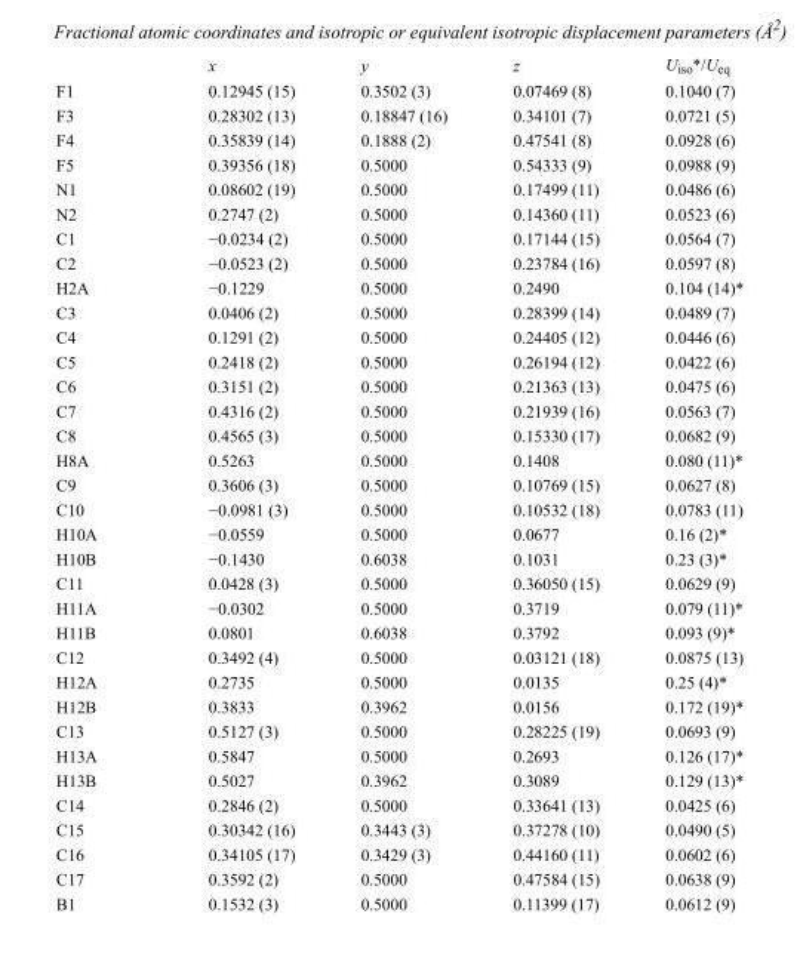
<table><thead><tr><td></td><td>x</td><td>y</td><td>z</td><td>U<sub>iso</sub>*/U<sub>eq</sub></td></tr></thead><tbody><tr><td>F1</td><td>0.12945 (15)</td><td>0.3502 (3)</td><td>0.07469 (8)</td><td>0.1040 (7)</td></tr><tr><td>F3</td><td>0.28302 (13)</td><td>0.18847 (16)</td><td>0.34101 (7)</td><td>0.0721 (5)</td></tr><tr><td>F4</td><td>0.35839 (14)</td><td>0.1888 (2)</td><td>0.47541 (8)</td><td>0.0928 (6)</td></tr><tr><td>F5</td><td>0.39356 (18)</td><td>0.5000</td><td>0.54333 (9)</td><td>0.0988 (9)</td></tr><tr><td>N1</td><td>0.08602 (19)</td><td>0.5000</td><td>0.17499 (11)</td><td>0.0486 (6)</td></tr><tr><td>N2</td><td>0.2747 (2)</td><td>0.5000</td><td>0.14360 (11)</td><td>0.0523 (6)</td></tr><tr><td>C1</td><td>−0.0234 (2)</td><td>0.5000</td><td>0.17144 (15)</td><td>0.0564 (7)</td></tr><tr><td>C2</td><td>−0.0523 (2)</td><td>0.5000</td><td>0.23784 (16)</td><td>0.0597 (8)</td></tr><tr><td>H2A</td><td>−0.1229</td><td>0.5000</td><td>0.2490</td><td>0.104 (14)*</td></tr><tr><td>C3</td><td>0.0406 (2)</td><td>0.5000</td><td>0.28399 (14)</td><td>0.0489 (7)</td></tr><tr><td>C4</td><td>0.1291 (2)</td><td>0.5000</td><td>0.24405 (12)</td><td>0.0446 (6)</td></tr><tr><td>C5</td><td>0.2418 (2)</td><td>0.5000</td><td>0.26194 (12)</td><td>0.0422 (6)</td></tr><tr><td>C6</td><td>0.3151 (2)</td><td>0.5000</td><td>0.21363 (13)</td><td>0.0475 (6)</td></tr><tr><td>C7</td><td>0.4316 (2)</td><td>0.5000</td><td>0.21939 (16)</td><td>0.0563 (7)</td></tr><tr><td>C8</td><td>0.4565 (3)</td><td>0.5000</td><td>0.15330 (17)</td><td>0.0682 (9)</td></tr><tr><td>H8A</td><td>0.5263</td><td>0.5000</td><td>0.1408</td><td>0.080 (11)*</td></tr><tr><td>C9</td><td>0.3606 (3)</td><td>0.5000</td><td>0.10769 (15)</td><td>0.0627 (8)</td></tr><tr><td>C10</td><td>−0.0981 (3)</td><td>0.5000</td><td>0.10532 (18)</td><td>0.0783 (11)</td></tr><tr><td>H10A</td><td>−0.0559</td><td>0.5000</td><td>0.0677</td><td>0.16 (2)*</td></tr><tr><td>H10B</td><td>−0.1430</td><td>0.6038</td><td>0.1031</td><td>0.23 (3)*</td></tr><tr><td>C11</td><td>0.0428 (3)</td><td>0.5000</td><td>0.36050 (15)</td><td>0.0629 (9)</td></tr><tr><td>H11A</td><td>−0.0302</td><td>0.5000</td><td>0.3719</td><td>0.079 (11)*</td></tr><tr><td>H11B</td><td>0.0801</td><td>0.6038</td><td>0.3792</td><td>0.093 (9)*</td></tr><tr><td>C12</td><td>0.3492 (4)</td><td>0.5000</td><td>0.03121 (18)</td><td>0.0875 (13)</td></tr><tr><td>H12A</td><td>0.2735</td><td>0.5000</td><td>0.0135</td><td>0.25 (4)*</td></tr><tr><td>H12B</td><td>0.3833</td><td>0.3962</td><td>0.0156</td><td>0.172 (19)*</td></tr><tr><td>C13</td><td>0.5127 (3)</td><td>0.5000</td><td>0.28225 (19)</td><td>0.0693 (9)</td></tr><tr><td>H13A</td><td>0.5847</td><td>0.5000</td><td>0.2693</td><td>0.126 (17)*</td></tr><tr><td>H13B</td><td>0.5027</td><td>0.3962</td><td>0.3089</td><td>0.129 (13)*</td></tr><tr><td>C14</td><td>0.2846 (2)</td><td>0.5000</td><td>0.33641 (13)</td><td>0.0425 (6)</td></tr><tr><td>C15</td><td>0.30342 (16)</td><td>0.3443 (3)</td><td>0.37278 (10)</td><td>0.0490 (5)</td></tr><tr><td>C16</td><td>0.34105 (17)</td><td>0.3429 (3)</td><td>0.44160 (11)</td><td>0.0602 (6)</td></tr><tr><td>C17</td><td>0.3592 (2)</td><td>0.5000</td><td>0.47584 (15)</td><td>0.0638 (9)</td></tr><tr><td>B1</td><td>0.1532 (3)</td><td>0.5000</td><td>0.11399 (17)</td><td>0.0612 (9)</td></tr></tbody></table>